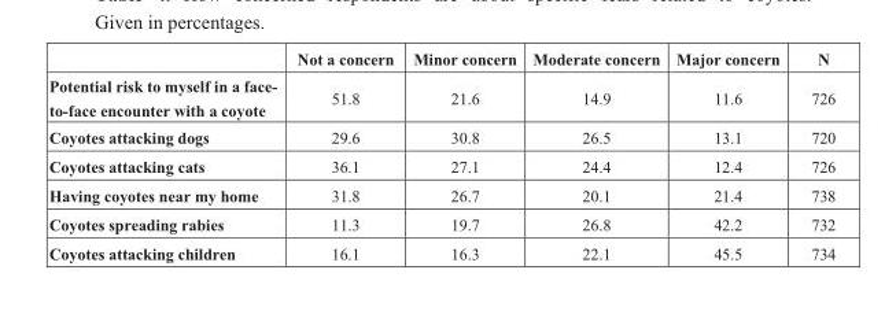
<table><thead><tr><td></td><td>Not a concern</td><td>Minor concern</td><td>Moderate concern</td><td>Major concern</td><td>N</td></tr></thead><tbody><tr><td>Potential risk to myself in a face- to-face encounter with a coyote</td><td>51.8</td><td>21.6</td><td>14.9</td><td>11.6</td><td>726</td></tr><tr><td>Coyotes attacking dogs</td><td>29.6</td><td>30.8</td><td>26.5</td><td>13.1</td><td>720</td></tr><tr><td>Coyotes attacking cats</td><td>36.1</td><td>27.1</td><td>24.4</td><td>12.4</td><td>726</td></tr><tr><td>Having coyotes near my home</td><td>31.8</td><td>26.7</td><td>20.1</td><td>21.4</td><td>738</td></tr><tr><td>Coyotes spreading rabies</td><td>11.3</td><td>19.7</td><td>26.8</td><td>42.2</td><td>732</td></tr><tr><td>Coyotes attacking children</td><td>16.1</td><td>16.3</td><td>22.1</td><td>45.5</td><td>734</td></tr></tbody></table>